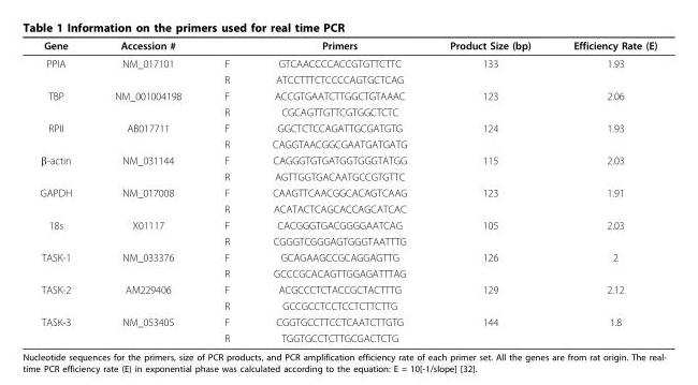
<table><thead><tr><td>Gene</td><td>Accession #</td><td></td><td>Primers</td><td>Product Size (bp)</td><td>Efficiency Rate (E)</td></tr></thead><tbody><tr><td rowspan="2">PPIA</td><td>NM_017101</td><td>F</td><td>GTCAACCCCACCGTGTTCTTC</td><td>133</td><td>1.93</td></tr><tr><td></td><td>R</td><td>ATCCTTTCTCCCCAGTGCTCAG</td><td></td><td></td></tr><tr><td rowspan="2">TBP</td><td>NM_001004198</td><td>F</td><td>ACCGTGAATCTTGGCTGTAAAC</td><td>123</td><td>2.06</td></tr><tr><td></td><td>R</td><td>CGCAGTTGTTCGTGGCTCTC</td><td></td><td></td></tr><tr><td rowspan="2">RPII</td><td>AB017711</td><td>F</td><td>GGCTCTCCAGATTGCGATGTG</td><td>124</td><td>1.93</td></tr><tr><td></td><td>R</td><td>CAGGTAACGGCGAATGATGATG</td><td></td><td></td></tr><tr><td rowspan="2">β-actin</td><td>NM_031144</td><td>F</td><td>CAGGGTGTGATGGTGGGTATGG</td><td>115</td><td>2.03</td></tr><tr><td></td><td>R</td><td>AGTTGGTGACAATGCCGTGTTC</td><td></td><td></td></tr><tr><td rowspan="2">GAPDH</td><td>NM_017008</td><td>F</td><td>CAAGTTCAACGGCACAGTCAAG</td><td>123</td><td>1.91</td></tr><tr><td></td><td>R</td><td>ACATACTCAGCACCAGCATCAC</td><td></td><td></td></tr><tr><td rowspan="2">18s</td><td>X01117</td><td>F</td><td>CACGGGTGACGGGGAATCAG</td><td>105</td><td>2.03</td></tr><tr><td></td><td>R</td><td>CGGGTCGGGAGTGGGTAATTTG</td><td></td><td></td></tr><tr><td rowspan="2">TASK-1</td><td>NM_033376</td><td>F</td><td>GCAGAAGCCGCAGGAGTTG</td><td>126</td><td>2</td></tr><tr><td></td><td>R</td><td>GCCCGCACAGTTGGAGATTTAG</td><td></td><td></td></tr><tr><td rowspan="2">TASK-2</td><td>AM229406</td><td>F</td><td>ACGCCCTCTACCGCTACTTTG</td><td>129</td><td>2.12</td></tr><tr><td></td><td>R</td><td>GCCGCCTCCTCCTCTTCTTG</td><td></td><td></td></tr><tr><td rowspan="2">TASK-3</td><td>NM_053405</td><td>F</td><td>CGGTGCCTTCCTCAATCTTGTG</td><td>144</td><td>1.8</td></tr><tr><td></td><td>R</td><td>TGGTGCCTCTTGCGACTCTG</td><td></td><td></td></tr></tbody></table>